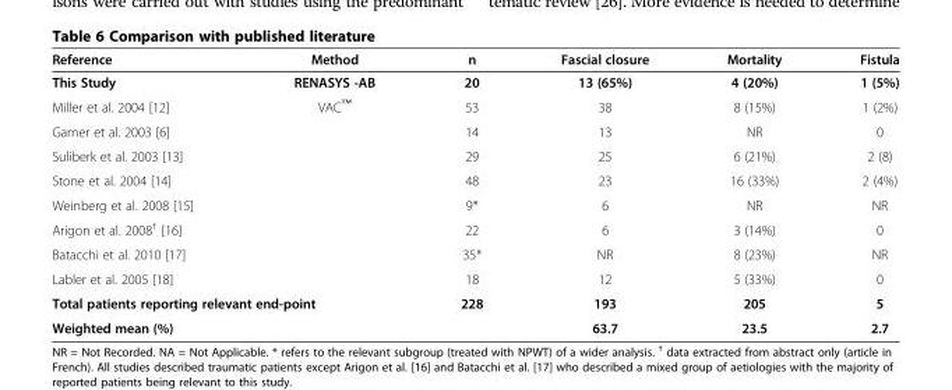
<table><thead><tr><td>Reference</td><td>Method</td><td>n</td><td>Fascial closure</td><td>Mortality</td><td>Fistula</td></tr></thead><tbody><tr><td>This Study</td><td>RENASYS -AB</td><td>20</td><td>13 (65%)</td><td>4 (20%)</td><td>1 (5%)</td></tr><tr><td>Miller et al. 2004 [12]</td><td rowspan="7">VAC™</td><td>53</td><td>38</td><td>8 (15%)</td><td>1 (2%)</td></tr><tr><td>Garner et al. 2003 [6]</td><td>14</td><td>13</td><td>NR</td><td>0</td></tr><tr><td>Suliberk et al. 2003 [13]</td><td>29</td><td>25</td><td>6 (21%)</td><td>2 (8)</td></tr><tr><td>Stone et al. 2004 [14]</td><td>48</td><td>23</td><td>16 (33%)</td><td>2 (4%)</td></tr><tr><td>Weinberg et al. 2008 [15]</td><td>9*</td><td>6</td><td>NR</td><td>NR</td></tr><tr><td>Arigon et al. 2008<sup>†</sup> [16]</td><td>22</td><td>6</td><td>3 (14%)</td><td>0</td></tr><tr><td>Batacchi et al. 2010 [17]</td><td>35*</td><td>NR</td><td>8 (23%)</td><td>NR</td></tr><tr><td>Labler et al. 2005 [18]</td><td></td><td>18</td><td>12</td><td>5 (33%)</td><td>0</td></tr><tr><td colspan="2">Total patients reporting relevant end-point</td><td>228</td><td>193</td><td>205</td><td>5</td></tr><tr><td colspan="2">Weighted mean (%)</td><td></td><td>63.7</td><td>23.5</td><td>2.7</td></tr></tbody></table>